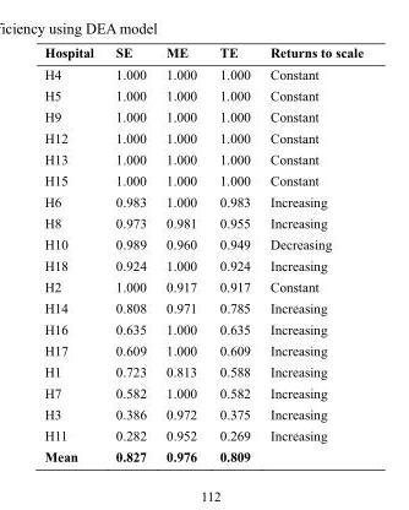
<table><thead><tr><td>Hospital</td><td>SE</td><td>ME</td><td>TE</td><td>Returns to scale</td></tr></thead><tbody><tr><td>H4</td><td>1.000</td><td>1.000</td><td>1.000</td><td>Constant</td></tr><tr><td>H5</td><td>1.000</td><td>1.000</td><td>1.000</td><td>Constant</td></tr><tr><td>H9</td><td>1.000</td><td>1.000</td><td>1.000</td><td>Constant</td></tr><tr><td>H12</td><td>1.000</td><td>1.000</td><td>1.000</td><td>Constant</td></tr><tr><td>H13</td><td>1.000</td><td>1.000</td><td>1.000</td><td>Constant</td></tr><tr><td>H15</td><td>1.000</td><td>1.000</td><td>1.000</td><td>Constant</td></tr><tr><td>H6</td><td>0.983</td><td>1.000</td><td>0.983</td><td>Increasing</td></tr><tr><td>H8</td><td>0.973</td><td>0.981</td><td>0.955</td><td>Increasing</td></tr><tr><td>H10</td><td>0.989</td><td>0.960</td><td>0.949</td><td>Decreasing</td></tr><tr><td>H18</td><td>0.924</td><td>1.000</td><td>0.924</td><td>Increasing</td></tr><tr><td>H2</td><td>1.000</td><td>0.917</td><td>0.917</td><td>Constant</td></tr><tr><td>H14</td><td>0.808</td><td>0.971</td><td>0.785</td><td>Increasing</td></tr><tr><td>H16</td><td>0.635</td><td>1.000</td><td>0.635</td><td>Increasing</td></tr><tr><td>H17</td><td>0.609</td><td>1.000</td><td>0.609</td><td>Increasing</td></tr><tr><td>H1</td><td>0.723</td><td>0.813</td><td>0.588</td><td>Increasing</td></tr><tr><td>H7</td><td>0.582</td><td>1.000</td><td>0.582</td><td>Increasing</td></tr><tr><td>H3</td><td>0.386</td><td>0.972</td><td>0.375</td><td>Increasing</td></tr><tr><td>H11</td><td>0.282</td><td>0.952</td><td>0.269</td><td>Increasing</td></tr><tr><td>Mean</td><td>0.827</td><td>0.976</td><td>0.809</td><td></td></tr></tbody></table>